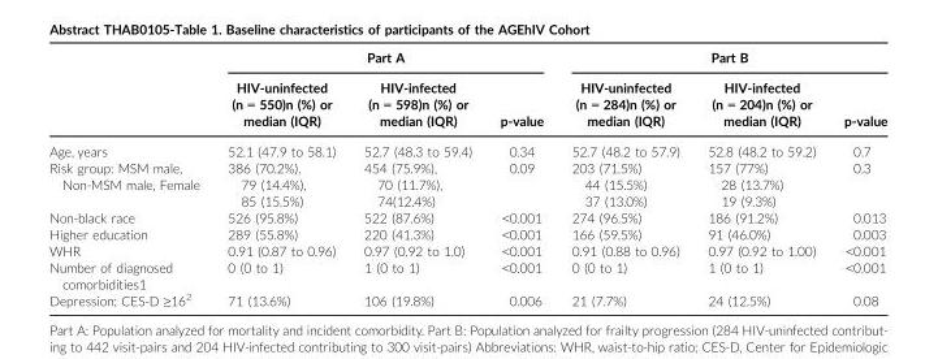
<table><thead><tr><td rowspan="2"></td><td colspan="3">Part A</td><td colspan="3">Part B</td></tr><tr><td>HIV-uninfected (n = 550)n (%) or median (IQR)</td><td>HIV-infected (n = 598)n (%) or median (IQR)</td><td>p-value</td><td>HIV-uninfected (n = 284)n (%) or median (IQR)</td><td>HIV-infected (n = 204)n (%) or median (IQR)</td><td>p-value</td></tr></thead><tbody><tr><td>Age, years</td><td>52.1 (47.9 to 58.1)</td><td>52.7 (48.3 to 59.4)</td><td>0.34</td><td>52.7 (48.2 to 57.9)</td><td>52.8 (48.2 to 59.2)</td><td>0.7</td></tr><tr><td>Risk group: MSM male, Non-MSM male, Female</td><td>386 (70.2%), 79 (14.4%), 85 (15.5%)</td><td>454 (75.9%), 70 (11.7%), 74(12.4%)</td><td>0.09</td><td>203 (71.5%) 44 (15.5%) 37 (13.0%)</td><td>157 (77%) 28 (13.7%) 19 (9.3%)</td><td>0.3</td></tr><tr><td>Non-black race</td><td>526 (95.8%)</td><td>522 (87.6%)</td><td>&lt;0.001</td><td>274 (96.5%)</td><td>186 (91.2%)</td><td>0.013</td></tr><tr><td>Higher education</td><td>289 (55.8%)</td><td>220 (41.3%)</td><td>&lt;0.001</td><td>166 (59.5%)</td><td>91 (46.0%)</td><td>0.003</td></tr><tr><td>WHR</td><td>0.91 (0.87 to 0.96)</td><td>0.97 (0.92 to 1.0)</td><td>&lt;0.001</td><td>0.91 (0.88 to 0.96)</td><td>0.97 (0.92 to 1.00)</td><td>&lt;0.001</td></tr><tr><td>Number of diagnosed comorbidities1</td><td>0 (0 to 1)</td><td>1 (0 to 1)</td><td>&lt;0.001</td><td>0 (0 to 1)</td><td>1 (0 to 1)</td><td>&lt;0.001</td></tr><tr><td>Depression; CES-D ≥16<sup>2</sup></td><td>71 (13.6%)</td><td>106 (19.8%)</td><td>0.006</td><td>21 (7.7%)</td><td>24 (12.5%)</td><td>0.08</td></tr></tbody></table>